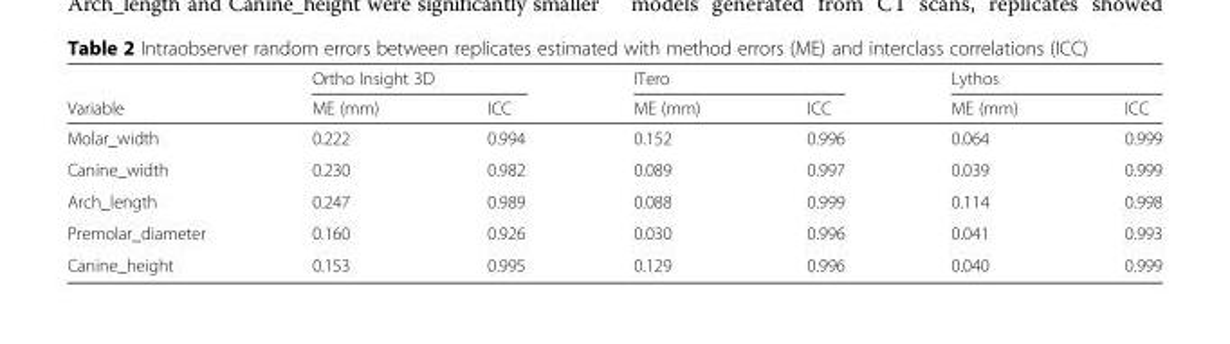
<table><thead><tr><td rowspan="2">Variable</td><td colspan="2">Ortho Insight 3D</td><td colspan="2">ITero</td><td colspan="2">Lythos</td></tr><tr><td>ME (mm)</td><td>ICC</td><td>ME (mm)</td><td>ICC</td><td>ME (mm)</td><td>ICC</td></tr></thead><tbody><tr><td>Molar_width</td><td>0.222</td><td>0.994</td><td>0.152</td><td>0.996</td><td>0.064</td><td>0.999</td></tr><tr><td>Canine_width</td><td>0.230</td><td>0.982</td><td>0.089</td><td>0.997</td><td>0.039</td><td>0.999</td></tr><tr><td>Arch_length</td><td>0.247</td><td>0.989</td><td>0.088</td><td>0.999</td><td>0.114</td><td>0.998</td></tr><tr><td>Premolar_diameter</td><td>0.160</td><td>0.926</td><td>0.030</td><td>0.996</td><td>0.041</td><td>0.993</td></tr><tr><td>Canine_height</td><td>0.153</td><td>0.995</td><td>0.129</td><td>0.996</td><td>0.040</td><td>0.999</td></tr></tbody></table>